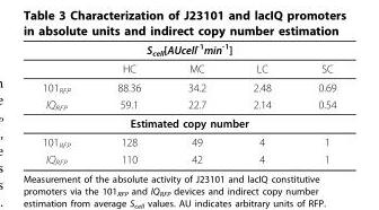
<table><thead><tr><td colspan="5">S<sub>cell</sub>[AUcell<sup>-1</sup>min<sup>-1</sup>]</td></tr><tr><td></td><td>HC</td><td>MC</td><td>LC</td><td>SC</td></tr></thead><tbody><tr><td>101<sub>RFP</sub></td><td>88.36</td><td>34.2</td><td>2.48</td><td>0.69</td></tr><tr><td>IQ<sub>RFP</sub></td><td>59.1</td><td>22.7</td><td>2.14</td><td>0.54</td></tr><tr><td colspan="5">Estimated copy number</td></tr><tr><td>101<sub>RFP</sub></td><td>128</td><td>49</td><td>4</td><td>1</td></tr><tr><td>IQ<sub>RFP</sub></td><td>110</td><td>42</td><td>4</td><td>1</td></tr></tbody></table>